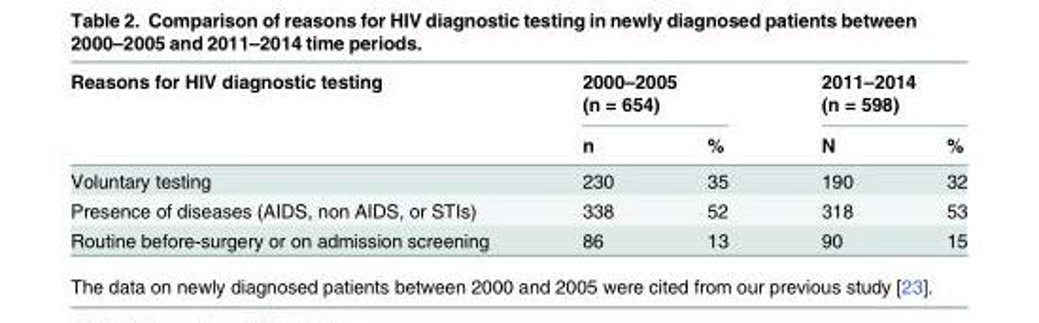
<table><thead><tr><td rowspan="2">Reasons for HIV diagnostic testing</td><td colspan="2">2000–2005 (n = 654)</td><td colspan="2">2011–2014 (n = 598)</td></tr><tr><td>n</td><td>%</td><td>N</td><td>%</td></tr></thead><tbody><tr><td>Voluntary testing</td><td>230</td><td>35</td><td>190</td><td>32</td></tr><tr><td>Presence of diseases (AIDS, non AIDS, or STIs)</td><td>338</td><td>52</td><td>318</td><td>53</td></tr><tr><td>Routine before-surgery or on admission screening</td><td>86</td><td>13</td><td>90</td><td>15</td></tr></tbody></table>